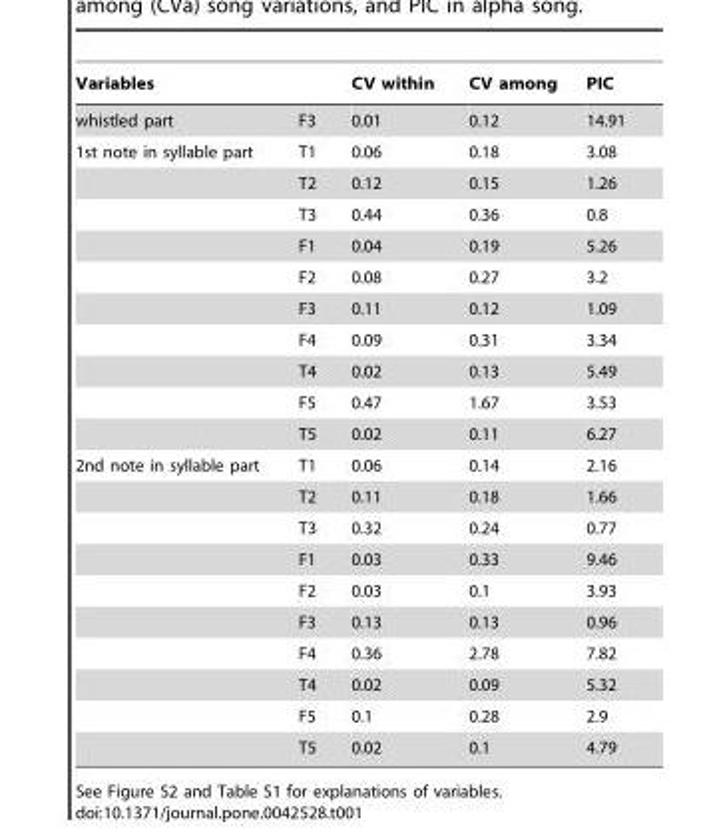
<table><thead><tr><td colspan="2">Variables</td><td rowspan="2">CV within 0.01</td><td rowspan="2">CV among 0.12</td><td rowspan="2">PIC 14.91</td></tr><tr><td>whistled part</td><td>F3</td></tr></thead><tbody><tr><td rowspan="10">1st note in syllable part</td><td>T1</td><td>0.06</td><td>0.18</td><td>3.08</td></tr><tr><td>T2</td><td>0.12</td><td>0.15</td><td>1.26</td></tr><tr><td>T3</td><td>0.44</td><td>0.36</td><td>0.8</td></tr><tr><td>F1</td><td>0.04</td><td>0.19</td><td>5.26</td></tr><tr><td>F2</td><td>0.08</td><td>0.27</td><td>3.2</td></tr><tr><td>F3</td><td>0.11</td><td>0.12</td><td>1.09</td></tr><tr><td>F4</td><td>0.09</td><td>0.31</td><td>3.34</td></tr><tr><td>T4</td><td>0.02</td><td>0.13</td><td>5.49</td></tr><tr><td>F5</td><td>0.47</td><td>1.67</td><td>3.53</td></tr><tr><td>T5</td><td>0.02</td><td>0.11</td><td>6.27</td></tr><tr><td rowspan="10">2nd note in syllable part</td><td>T1</td><td>0.06</td><td>0.14</td><td>2.16</td></tr><tr><td>T2</td><td>0.11</td><td>0.18</td><td>1.66</td></tr><tr><td>T3</td><td>0.32</td><td>0.24</td><td>0.77</td></tr><tr><td>F1</td><td>0.03</td><td>0.33</td><td>9.46</td></tr><tr><td>F2</td><td>0.03</td><td>0.1</td><td>3.93</td></tr><tr><td>F3</td><td>0.13</td><td>0.13</td><td>0.96</td></tr><tr><td>F4</td><td>0.36</td><td>2.78</td><td>7.82</td></tr><tr><td>T4</td><td>0.02</td><td>0.09</td><td>5.32</td></tr><tr><td>F5</td><td>0.1</td><td>0.28</td><td>2.9</td></tr><tr><td>T5</td><td>0.02</td><td>0.1</td><td>4.79</td></tr></tbody></table>